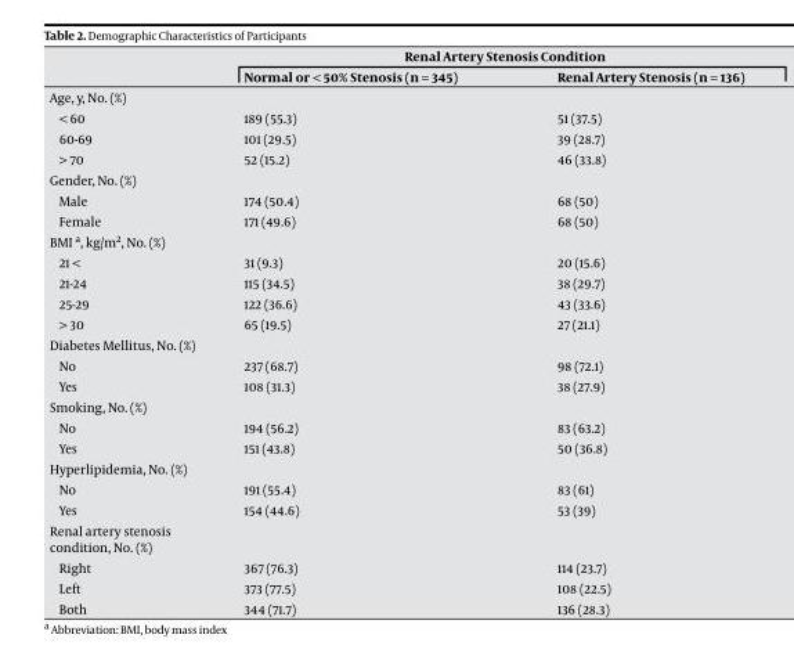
<table><thead><tr><td rowspan="2"></td><td colspan="2">Renal Artery Stenosis Condition</td></tr><tr><td>Normal or &lt; 50% Stenosis (n = 345)</td><td>Renal Artery Stenosis (n = 136)</td></tr></thead><tbody><tr><td colspan="3">Age, y, No. (%)</td></tr><tr><td>&lt; 60</td><td>189 (55.3)</td><td>51 (37.5)</td></tr><tr><td>60-69</td><td>101 (29.5)</td><td>39 (28.7)</td></tr><tr><td>&gt; 70</td><td>52 (15.2)</td><td>46 (33.8)</td></tr><tr><td colspan="3">Gender, No. (%)</td></tr><tr><td>Male</td><td>174 (50.4)</td><td>68 (50)</td></tr><tr><td>Female</td><td>171 (49.6)</td><td>68 (50)</td></tr><tr><td colspan="3">BMI a, kg/m<sup>2</sup>, No. (%)</td></tr><tr><td>21 &lt;</td><td>31 (9.3)</td><td>20 (15.6)</td></tr><tr><td>21-24</td><td>115 (34.5)</td><td>38 (29.7)</td></tr><tr><td>25-29</td><td>122 (36.6)</td><td>43 (33.6)</td></tr><tr><td>&gt; 30</td><td>65 (19.5)</td><td>27 (21.1)</td></tr><tr><td colspan="3">Diabetes Mellitus, No. (%)</td></tr><tr><td>No</td><td>237 (68.7)</td><td>98 (72.1)</td></tr><tr><td>Yes</td><td>108 (31.3)</td><td>38 (27.9)</td></tr><tr><td colspan="3">Smoking, No. (%)</td></tr><tr><td>No</td><td>194 (56.2)</td><td>83 (63.2)</td></tr><tr><td>Yes</td><td>151 (43.8)</td><td>50 (36.8)</td></tr><tr><td colspan="3">Hyperlipidemia, No. (%)</td></tr><tr><td>No</td><td>191 (55.4)</td><td>83 (61)</td></tr><tr><td>Yes</td><td>154 (44.6)</td><td>53 (39)</td></tr><tr><td colspan="3">Renal artery stenosis condition, No. (%)</td></tr><tr><td>Right</td><td>367 (76.3)</td><td>114 (23.7)</td></tr><tr><td>Left</td><td>373 (77.5)</td><td>108 (22.5)</td></tr><tr><td>Both</td><td>344 (71.7)</td><td>136 (28.3)</td></tr></tbody></table>